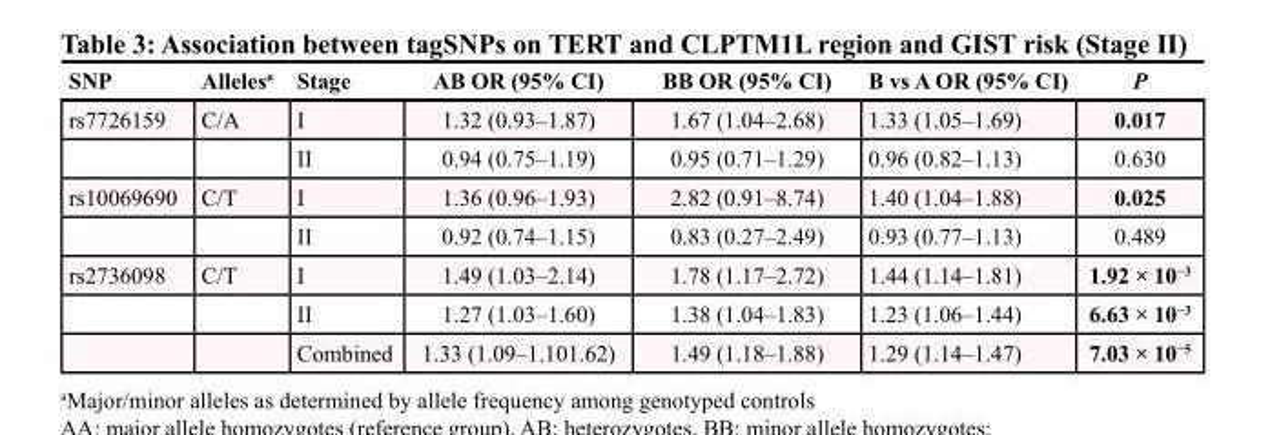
<table><thead><tr><td>SNP</td><td>Alleles<sup>a</sup></td><td>Stage</td><td>AB OR (95% CI)</td><td>BB OR (95% CI)</td><td>B vs A OR (95% CI)</td><td>P</td></tr></thead><tbody><tr><td rowspan="2">rs7726159</td><td>C/A</td><td>I</td><td>1.32 (0.93–1.87)</td><td>1.67 (1.04–2.68)</td><td>1.33 (1.05–1.69)</td><td>0.017</td></tr><tr><td></td><td>II</td><td>0.94 (0.75–1.19)</td><td>0.95 (0.71–1.29)</td><td>0.96 (0.82–1.13)</td><td>0.630</td></tr><tr><td rowspan="2">rs10069690</td><td>C/T</td><td>I</td><td>1.36 (0.96–1.93)</td><td>2.82 (0.91–8.74)</td><td>1.40 (1.04–1.88)</td><td>0.025</td></tr><tr><td></td><td>II</td><td>0.92 (0.74–1.15)</td><td>0.83 (0.27–2.49)</td><td>0.93 (0.77–1.13)</td><td>0.489</td></tr><tr><td rowspan="3">rs2736098</td><td>C/T</td><td>I</td><td>1.49 (1.03–2.14)</td><td>1.78 (1.17–2.72)</td><td>1.44 (1.14–1.81)</td><td>1.92 × 10<sup>−3</sup></td></tr><tr><td></td><td>II</td><td>1.27 (1.03–1.60)</td><td>1.38 (1.04–1.83)</td><td>1.23 (1.06–1.44)</td><td>6.63 × 10<sup>−3</sup></td></tr><tr><td></td><td>Combined</td><td>1.33 (1.09–1.101.62)</td><td>1.49 (1.18–1.88)</td><td>1.29 (1.14–1.47)</td><td>7.03 × 10<sup>−5</sup></td></tr></tbody></table>